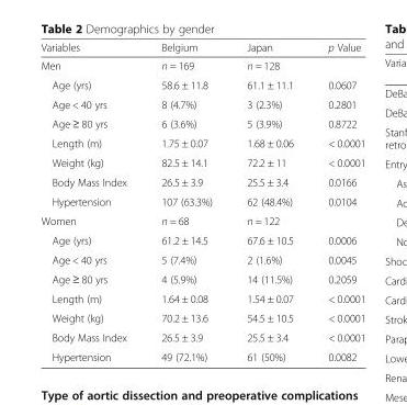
<table><thead><tr><td>Variables</td><td>Belgium</td><td>Japan</td><td>p Value</td></tr></thead><tbody><tr><td>Men</td><td>n = 169</td><td>n = 128</td><td></td></tr><tr><td>Age (yrs)</td><td>58.6 ± 11.8</td><td>61.1 ± 11.1</td><td>0.0607</td></tr><tr><td>Age &lt; 40 yrs</td><td>8 (4.7%)</td><td>3 (2.3%)</td><td>0.2801</td></tr><tr><td>Age ≥ 80 yrs</td><td>6 (3.6%)</td><td>5 (3.9%)</td><td>0.8722</td></tr><tr><td>Length (m)</td><td>1.75 ± 0.07</td><td>1.68 ± 0.06</td><td>&lt; 0.0001</td></tr><tr><td>Weight (kg)</td><td>82.5 ± 14.1</td><td>72.2 ± 11</td><td>&lt; 0.0001</td></tr><tr><td>Body Mass Index</td><td>26.5 ± 3.9</td><td>25.5 ± 3.4</td><td>0.0166</td></tr><tr><td>Hypertension</td><td>107 (63.3%)</td><td>62 (48.4%)</td><td>0.0104</td></tr><tr><td>Women</td><td>n = 68</td><td>n = 122</td><td></td></tr><tr><td>Age (yrs)</td><td>61.2 ± 14.5</td><td>67.6 ± 10.5</td><td>0.0006</td></tr><tr><td>Age &lt; 40 yrs</td><td>5 (7.4%)</td><td>2 (1.6%)</td><td>0.0045</td></tr><tr><td>Age ≥ 80 yrs</td><td>4 (5.9%)</td><td>14 (11.5%)</td><td>0.2059</td></tr><tr><td>Length (m)</td><td>1.64 ± 0.08</td><td>1.54 ± 0.07</td><td>&lt; 0.0001</td></tr><tr><td>Weight (kg)</td><td>70.2 ± 13.6</td><td>54.5 ± 10.5</td><td>&lt; 0.0001</td></tr><tr><td>Body Mass Index</td><td>26.5 ± 3.9</td><td>25.5 ± 3.4</td><td>&lt; 0.0001</td></tr><tr><td>Hypertension</td><td>49 (72.1%)</td><td>61 (50%)</td><td>0.0082</td></tr></tbody></table>